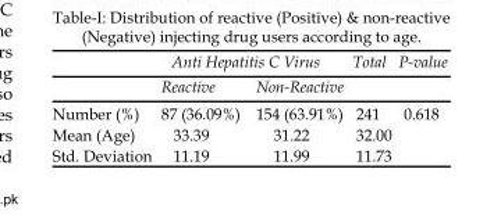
<table><thead><tr><td rowspan="2"></td><td colspan="2">Anti Hepatitis C Virus</td><td rowspan="2">Total</td><td rowspan="2">P-value</td></tr><tr><td>Reactive</td><td>Non-Reactive</td></tr></thead><tbody><tr><td>Number (%)</td><td>87 (36.09%)</td><td>154 (63.91%)</td><td>241</td><td>0.618</td></tr><tr><td>Mean (Age)</td><td>33.39</td><td>31.22</td><td>32.00</td><td></td></tr><tr><td>Std. Deviation</td><td>11.19</td><td>11.99</td><td>11.73</td><td></td></tr></tbody></table>